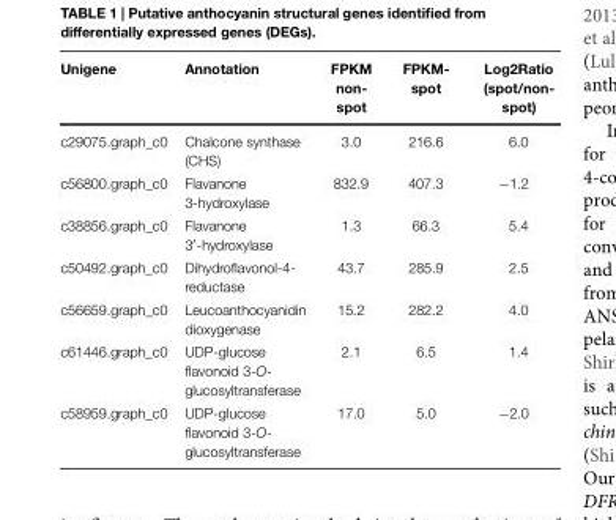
<table><thead><tr><td>Unigene</td><td>Annotation</td><td>FPKM non- spot</td><td>FPKM- spot</td><td>Log2Ratio (spot/non- spot)</td></tr></thead><tbody><tr><td>c29075.graph_c0</td><td>Chalcone synthase (CHS)</td><td>3.0</td><td>216.6</td><td>6.0</td></tr><tr><td>c56800.graph_c0</td><td>Flavanone 3-hydroxylase</td><td>832.9</td><td>407.3</td><td>−1.2</td></tr><tr><td>c38856.graph_c0</td><td>Flavanone 3′-hydroxylase</td><td>1.3</td><td>66.3</td><td>5.4</td></tr><tr><td>c50492.graph_c0</td><td>Dihydroflavonol-4- reductase</td><td>43.7</td><td>285.9</td><td>2.5</td></tr><tr><td>c56659.graph_c0</td><td>Leucoanthocyanidin dioxygenase</td><td>15.2</td><td>282.2</td><td>4.0</td></tr><tr><td>c61446.graph_c0</td><td>UDP-glucose flavonoid 3-O- glucosyltransferase</td><td>2.1</td><td>6.5</td><td>1.4</td></tr><tr><td>c58959.graph_c0</td><td>UDP-glucose flavonoid 3-O- glucosyltransferase</td><td>17.0</td><td>5.0</td><td>−2.0</td></tr></tbody></table>